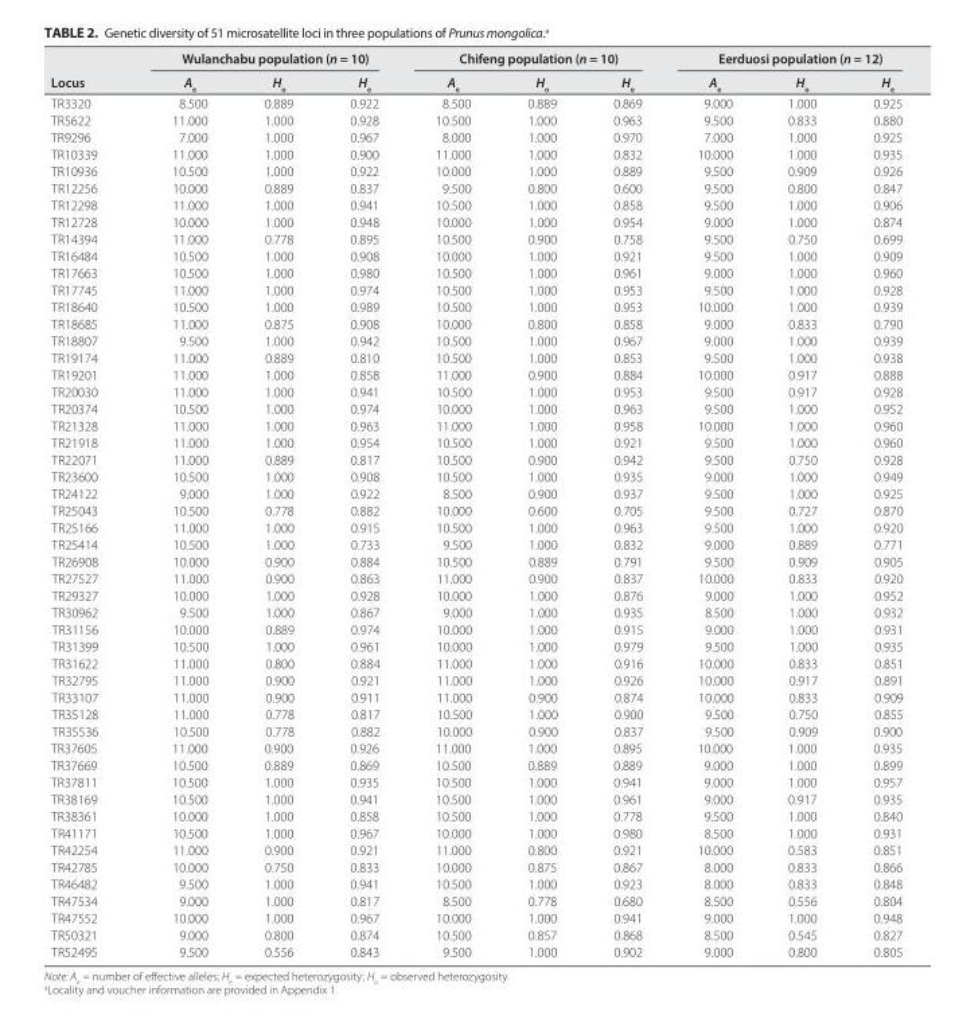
<table><thead><tr><td rowspan="2">Locus</td><td colspan="3">Wulanchabu population (n = 10)</td><td colspan="3">Chifeng population (n = 10)</td><td colspan="3">Eerduosi population (n = 12)</td></tr><tr><td>A<sub>e</sub></td><td>H<sub>o</sub></td><td>H<sub>e</sub></td><td>A<sub>e</sub></td><td>H<sub>o</sub></td><td>H<sub>e</sub></td><td>A<sub>e</sub></td><td>H<sub>o</sub></td><td>H<sub>e</sub></td></tr></thead><tbody><tr><td>TR3320</td><td>8.500</td><td>0.889</td><td>0.922</td><td>8.500</td><td>0.889</td><td>0.869</td><td>9.000</td><td>1.000</td><td>0.925</td></tr><tr><td>TR5622</td><td>11.000</td><td>1.000</td><td>0.928</td><td>10.500</td><td>1.000</td><td>0.963</td><td>9.500</td><td>0.833</td><td>0.880</td></tr><tr><td>TR9296</td><td>7.000</td><td>1.000</td><td>0.967</td><td>8.000</td><td>1.000</td><td>0.970</td><td>7.000</td><td>1.000</td><td>0.925</td></tr><tr><td>TR10339</td><td>11.000</td><td>1.000</td><td>0.900</td><td>11.000</td><td>1.000</td><td>0.832</td><td>10.000</td><td>1.000</td><td>0.935</td></tr><tr><td>TR10936</td><td>10.500</td><td>1.000</td><td>0.922</td><td>10.000</td><td>1.000</td><td>0.889</td><td>9.500</td><td>0.909</td><td>0.926</td></tr><tr><td>TR12256</td><td>10.000</td><td>0.889</td><td>0.837</td><td>9.500</td><td>0.800</td><td>0.600</td><td>9.500</td><td>0.800</td><td>0.847</td></tr><tr><td>TR12298</td><td>11.000</td><td>1.000</td><td>0.941</td><td>10.500</td><td>1.000</td><td>0.858</td><td>9.500</td><td>1.000</td><td>0.906</td></tr><tr><td>TR12728</td><td>10.000</td><td>1.000</td><td>0.948</td><td>10.000</td><td>1.000</td><td>0.954</td><td>9.000</td><td>1.000</td><td>0.874</td></tr><tr><td>TR14394</td><td>11.000</td><td>0.778</td><td>0.895</td><td>10.500</td><td>0.900</td><td>0.758</td><td>9.500</td><td>0.750</td><td>0.699</td></tr><tr><td>TR16484</td><td>10.500</td><td>1.000</td><td>0.908</td><td>10.000</td><td>1.000</td><td>0.921</td><td>9.500</td><td>1.000</td><td>0.909</td></tr><tr><td>TR17663</td><td>10.500</td><td>1.000</td><td>0.980</td><td>10.500</td><td>1.000</td><td>0.961</td><td>9.000</td><td>1.000</td><td>0.960</td></tr><tr><td>TR17745</td><td>11.000</td><td>1.000</td><td>0.974</td><td>10.500</td><td>1.000</td><td>0.953</td><td>9.500</td><td>1.000</td><td>0.928</td></tr><tr><td>TR18640</td><td>10.500</td><td>1.000</td><td>0.989</td><td>10.500</td><td>1.000</td><td>0.953</td><td>10.000</td><td>1.000</td><td>0.939</td></tr><tr><td>TR18685</td><td>11.000</td><td>0.875</td><td>0.908</td><td>10.000</td><td>0.800</td><td>0.858</td><td>9.000</td><td>0.833</td><td>0.790</td></tr><tr><td>TR18807</td><td>9.500</td><td>1.000</td><td>0.942</td><td>10.500</td><td>1.000</td><td>0.967</td><td>9.000</td><td>1.000</td><td>0.939</td></tr><tr><td>TR19174</td><td>11.000</td><td>0.889</td><td>0.810</td><td>10.500</td><td>1.000</td><td>0.853</td><td>9.500</td><td>1.000</td><td>0.938</td></tr><tr><td>TR19201</td><td>11.000</td><td>1.000</td><td>0.858</td><td>11.000</td><td>0.900</td><td>0.884</td><td>10.000</td><td>0.917</td><td>0.888</td></tr><tr><td>TR20030</td><td>11.000</td><td>1.000</td><td>0.941</td><td>10.500</td><td>1.000</td><td>0.953</td><td>9.500</td><td>0.917</td><td>0.928</td></tr><tr><td>TR20374</td><td>10.500</td><td>1.000</td><td>0.974</td><td>10.000</td><td>1.000</td><td>0.963</td><td>9.500</td><td>1.000</td><td>0.952</td></tr><tr><td>TR21328</td><td>11.000</td><td>1.000</td><td>0.963</td><td>11.000</td><td>1.000</td><td>0.958</td><td>10.000</td><td>1.000</td><td>0.960</td></tr><tr><td>TR21918</td><td>11.000</td><td>1.000</td><td>0.954</td><td>10.500</td><td>1.000</td><td>0.921</td><td>9.500</td><td>1.000</td><td>0.960</td></tr><tr><td>TR22071</td><td>11.000</td><td>0.889</td><td>0.817</td><td>10.500</td><td>0.900</td><td>0.942</td><td>9.500</td><td>0.750</td><td>0.928</td></tr><tr><td>TR23600</td><td>10.500</td><td>1.000</td><td>0.908</td><td>10.500</td><td>1.000</td><td>0.935</td><td>9.000</td><td>1.000</td><td>0.949</td></tr><tr><td>TR24122</td><td>9.000</td><td>1.000</td><td>0.922</td><td>8.500</td><td>0.900</td><td>0.937</td><td>9.500</td><td>1.000</td><td>0.925</td></tr><tr><td>TR25043</td><td>10.500</td><td>0.778</td><td>0.882</td><td>10.000</td><td>0.600</td><td>0.705</td><td>9.500</td><td>0.727</td><td>0.870</td></tr><tr><td>TR25166</td><td>11.000</td><td>1.000</td><td>0.915</td><td>10.500</td><td>1.000</td><td>0.963</td><td>9.500</td><td>1.000</td><td>0.920</td></tr><tr><td>TR25414</td><td>10.500</td><td>1.000</td><td>0.733</td><td>9.500</td><td>1.000</td><td>0.832</td><td>9.000</td><td>0.889</td><td>0.771</td></tr><tr><td>TR26908</td><td>10.000</td><td>0.900</td><td>0.884</td><td>10.500</td><td>0.889</td><td>0.791</td><td>9.500</td><td>0.909</td><td>0.905</td></tr><tr><td>TR27527</td><td>11.000</td><td>0.900</td><td>0.863</td><td>11.000</td><td>0.900</td><td>0.837</td><td>10.000</td><td>0.833</td><td>0.920</td></tr><tr><td>TR29327</td><td>10.000</td><td>1.000</td><td>0.928</td><td>10.000</td><td>1.000</td><td>0.876</td><td>9.000</td><td>1.000</td><td>0.952</td></tr><tr><td>TR30962</td><td>9.500</td><td>1.000</td><td>0.867</td><td>9.000</td><td>1.000</td><td>0.935</td><td>8.500</td><td>1.000</td><td>0.932</td></tr><tr><td>TR31156</td><td>10.000</td><td>0.889</td><td>0.974</td><td>10.000</td><td>1.000</td><td>0.915</td><td>9.000</td><td>1.000</td><td>0.931</td></tr><tr><td>TR31399</td><td>10.500</td><td>1.000</td><td>0.961</td><td>10.000</td><td>1.000</td><td>0.979</td><td>9.500</td><td>1.000</td><td>0.935</td></tr><tr><td>TR31622</td><td>11.000</td><td>0.800</td><td>0.884</td><td>11.000</td><td>1.000</td><td>0.916</td><td>10.000</td><td>0.833</td><td>0.851</td></tr><tr><td>TR32795</td><td>11.000</td><td>0.900</td><td>0.921</td><td>11.000</td><td>1.000</td><td>0.926</td><td>10.000</td><td>0.917</td><td>0.891</td></tr><tr><td>TR33107</td><td>11.000</td><td>0.900</td><td>0.911</td><td>11.000</td><td>0.900</td><td>0.874</td><td>10.000</td><td>0.833</td><td>0.909</td></tr><tr><td>TR35128</td><td>11.000</td><td>0.778</td><td>0.817</td><td>10.500</td><td>1.000</td><td>0.900</td><td>9.500</td><td>0.750</td><td>0.855</td></tr><tr><td>TR35536</td><td>10.500</td><td>0.778</td><td>0.882</td><td>10.000</td><td>0.900</td><td>0.837</td><td>9.500</td><td>0.909</td><td>0.900</td></tr><tr><td>TR37605</td><td>11.000</td><td>0.900</td><td>0.926</td><td>11.000</td><td>1.000</td><td>0.895</td><td>10.000</td><td>1.000</td><td>0.935</td></tr><tr><td>TR37669</td><td>10.500</td><td>0.889</td><td>0.869</td><td>10.500</td><td>0.889</td><td>0.889</td><td>9.000</td><td>1.000</td><td>0.899</td></tr><tr><td>TR37811</td><td>10.500</td><td>1.000</td><td>0.935</td><td>10.500</td><td>1.000</td><td>0.941</td><td>9.000</td><td>1.000</td><td>0.957</td></tr><tr><td>TR38169</td><td>10.500</td><td>1.000</td><td>0.941</td><td>10.500</td><td>1.000</td><td>0.961</td><td>9.000</td><td>0.917</td><td>0.935</td></tr><tr><td>TR38361</td><td>10.000</td><td>1.000</td><td>0.858</td><td>10.500</td><td>1.000</td><td>0.778</td><td>9.500</td><td>1.000</td><td>0.840</td></tr><tr><td>TR41171</td><td>10.500</td><td>1.000</td><td>0.967</td><td>10.000</td><td>1.000</td><td>0.980</td><td>8.500</td><td>1.000</td><td>0.931</td></tr><tr><td>TR42254</td><td>11.000</td><td>0.900</td><td>0.921</td><td>11.000</td><td>0.800</td><td>0.921</td><td>10.000</td><td>0.583</td><td>0.851</td></tr><tr><td>TR42785</td><td>10.000</td><td>0.750</td><td>0.833</td><td>10.000</td><td>0.875</td><td>0.867</td><td>8.000</td><td>0.833</td><td>0.866</td></tr><tr><td>TR46482</td><td>9.500</td><td>1.000</td><td>0.941</td><td>10.500</td><td>1.000</td><td>0.923</td><td>8.000</td><td>0.833</td><td>0.848</td></tr><tr><td>TR47534</td><td>9.000</td><td>1.000</td><td>0.817</td><td>8.500</td><td>0.778</td><td>0.680</td><td>8.500</td><td>0.556</td><td>0.804</td></tr><tr><td>TR47552</td><td>10.000</td><td>1.000</td><td>0.967</td><td>10.000</td><td>1.000</td><td>0.941</td><td>9.000</td><td>1.000</td><td>0.948</td></tr><tr><td>TR50321</td><td>9.000</td><td>0.800</td><td>0.874</td><td>10.500</td><td>0.857</td><td>0.868</td><td>8.500</td><td>0.545</td><td>0.827</td></tr><tr><td>TR52495</td><td>9.500</td><td>0.556</td><td>0.843</td><td>9.500</td><td>1.000</td><td>0.902</td><td>9.000</td><td>0.800</td><td>0.805</td></tr></tbody></table>